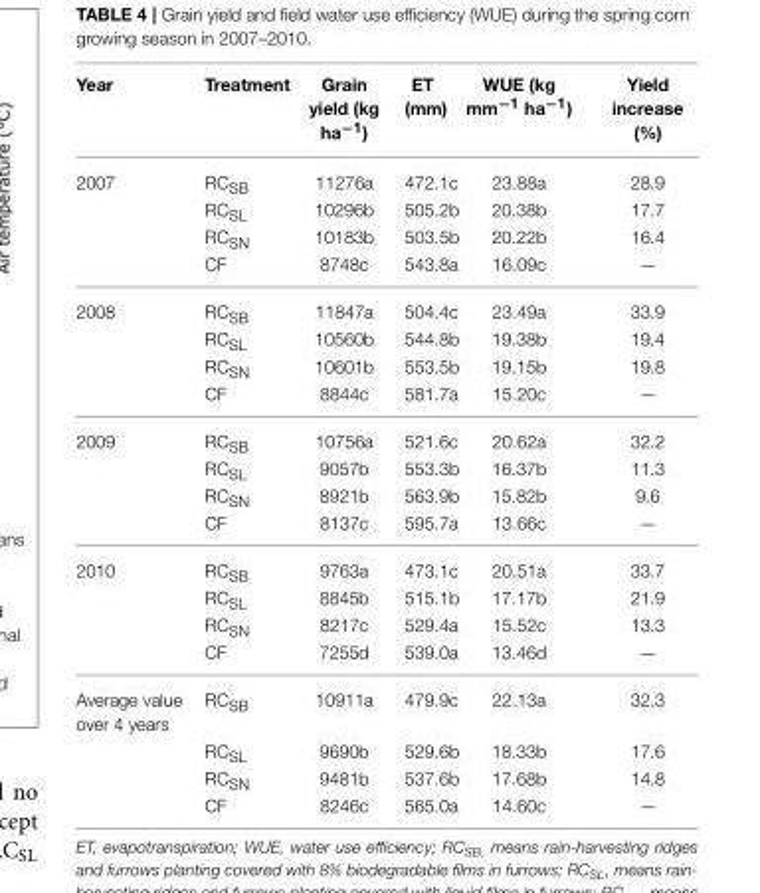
<table><thead><tr><td>Year</td><td>Treatment</td><td>Grain yield (kg ha<sup>−1</sup>)</td><td>ET (mm)</td><td>WUE (kg mm<sup>−1</sup> ha<sup>−1</sup>)</td><td>Yield increase (%)</td></tr></thead><tbody><tr><td rowspan="4">2007</td><td>RC<sub>SB</sub></td><td>11276a</td><td>472.1c</td><td>23.88a</td><td>28.9</td></tr><tr><td>RC<sub>SL</sub></td><td>10296b</td><td>505.2b</td><td>20.38b</td><td>17.7</td></tr><tr><td>RC<sub>SN</sub></td><td>10183b</td><td>503.5b</td><td>20.22b</td><td>16.4</td></tr><tr><td>CF</td><td>8748c</td><td>543.8a</td><td>16.09c</td><td>—</td></tr><tr><td rowspan="4">2008</td><td>RC<sub>SB</sub></td><td>11847a</td><td>504.4c</td><td>23.49a</td><td>33.9</td></tr><tr><td>RC<sub>SL</sub></td><td>10560b</td><td>544.8b</td><td>19.38b</td><td>19.4</td></tr><tr><td>RC<sub>SN</sub></td><td>10601b</td><td>553.5b</td><td>19.15b</td><td>19.8</td></tr><tr><td>CF</td><td>8844c</td><td>581.7a</td><td>15.20c</td><td>—</td></tr><tr><td rowspan="4">2009</td><td>RC<sub>SB</sub></td><td>10756a</td><td>521.6c</td><td>20.62a</td><td>32.2</td></tr><tr><td>RC<sub>SL</sub></td><td>9057b</td><td>553.3b</td><td>16.37b</td><td>11.3</td></tr><tr><td>RC<sub>SN</sub></td><td>8921b</td><td>563.9b</td><td>15.82b</td><td>9.6</td></tr><tr><td>CF</td><td>8137c</td><td>595.7a</td><td>13.66c</td><td>—</td></tr><tr><td rowspan="4">2010</td><td>RC<sub>SB</sub></td><td>9763a</td><td>473.1c</td><td>20.51a</td><td>33.7</td></tr><tr><td>RC<sub>SL</sub></td><td>8845b</td><td>515.1b</td><td>17.17b</td><td>21.9</td></tr><tr><td>RC<sub>SN</sub></td><td>8217c</td><td>529.4a</td><td>15.52c</td><td>13.3</td></tr><tr><td>CF</td><td>7255d</td><td>539.0a</td><td>13.46d</td><td>—</td></tr><tr><td rowspan="4">Average value over 4 years</td><td>RC<sub>SB</sub></td><td>10911a</td><td>479.9c</td><td>22.13a</td><td>32.3</td></tr><tr><td>RC<sub>SL</sub></td><td>9690b</td><td>529.6b</td><td>18.33b</td><td>17.6</td></tr><tr><td>RC<sub>SN</sub></td><td>9481b</td><td>537.6b</td><td>17.68b</td><td>14.8</td></tr><tr><td>CF</td><td>8246c</td><td>565.0a</td><td>14.60c</td><td>—</td></tr></tbody></table>